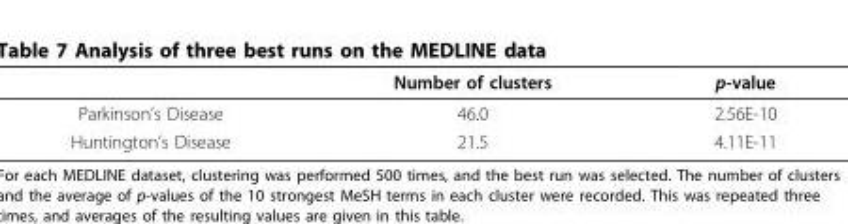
<table><thead><tr><td></td><td>Number of clusters</td><td>p-value</td></tr></thead><tbody><tr><td>Parkinson’s Disease</td><td>46.0</td><td>2.56E-10</td></tr><tr><td>Huntington’s Disease</td><td>21.5</td><td>4.11E-11</td></tr></tbody></table>